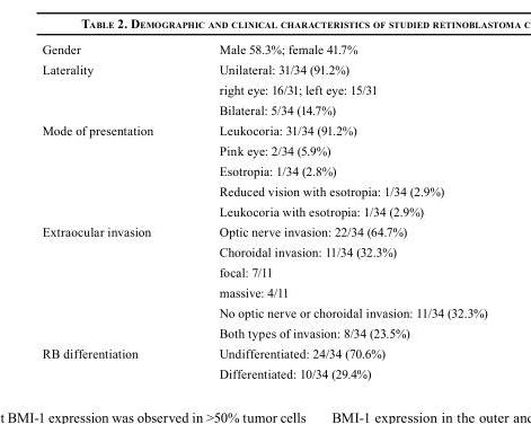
<table><tbody><tr><td>Gender</td><td>Male 58.3%; female 41.7%</td></tr><tr><td rowspan="3">Laterality</td><td>Unilateral: 31/34 (91.2%)</td></tr><tr><td>right eye: 16/31; left eye: 15/31</td></tr><tr><td>Bilateral: 5/34 (14.7%)</td></tr><tr><td rowspan="5">Mode of presentation</td><td>Leukocoria: 31/34 (91.2%)</td></tr><tr><td>Pink eye: 2/34 (5.9%)</td></tr><tr><td>Esotropia: 1/34 (2.8%)</td></tr><tr><td>Reduced vision with esotropia: 1/34 (2.9%)</td></tr><tr><td>Leukocoria with esotropia: 1/34 (2.9%)</td></tr><tr><td rowspan="6">Extraocular invasion</td><td>Optic nerve invasion: 22/34 (64.7%)</td></tr><tr><td>Choroidal invasion: 11/34 (32.3%)</td></tr><tr><td>focal: 7/11</td></tr><tr><td>massive: 4/11</td></tr><tr><td>No optic nerve or choroidal invasion: 11/34 (32.3%)</td></tr><tr><td>Both types of invasion: 8/34 (23.5%)</td></tr><tr><td rowspan="2">RB differentiation</td><td>Undifferentiated: 24/34 (70.6%)</td></tr><tr><td>Differentiated: 10/34 (29.4%)</td></tr></tbody></table>